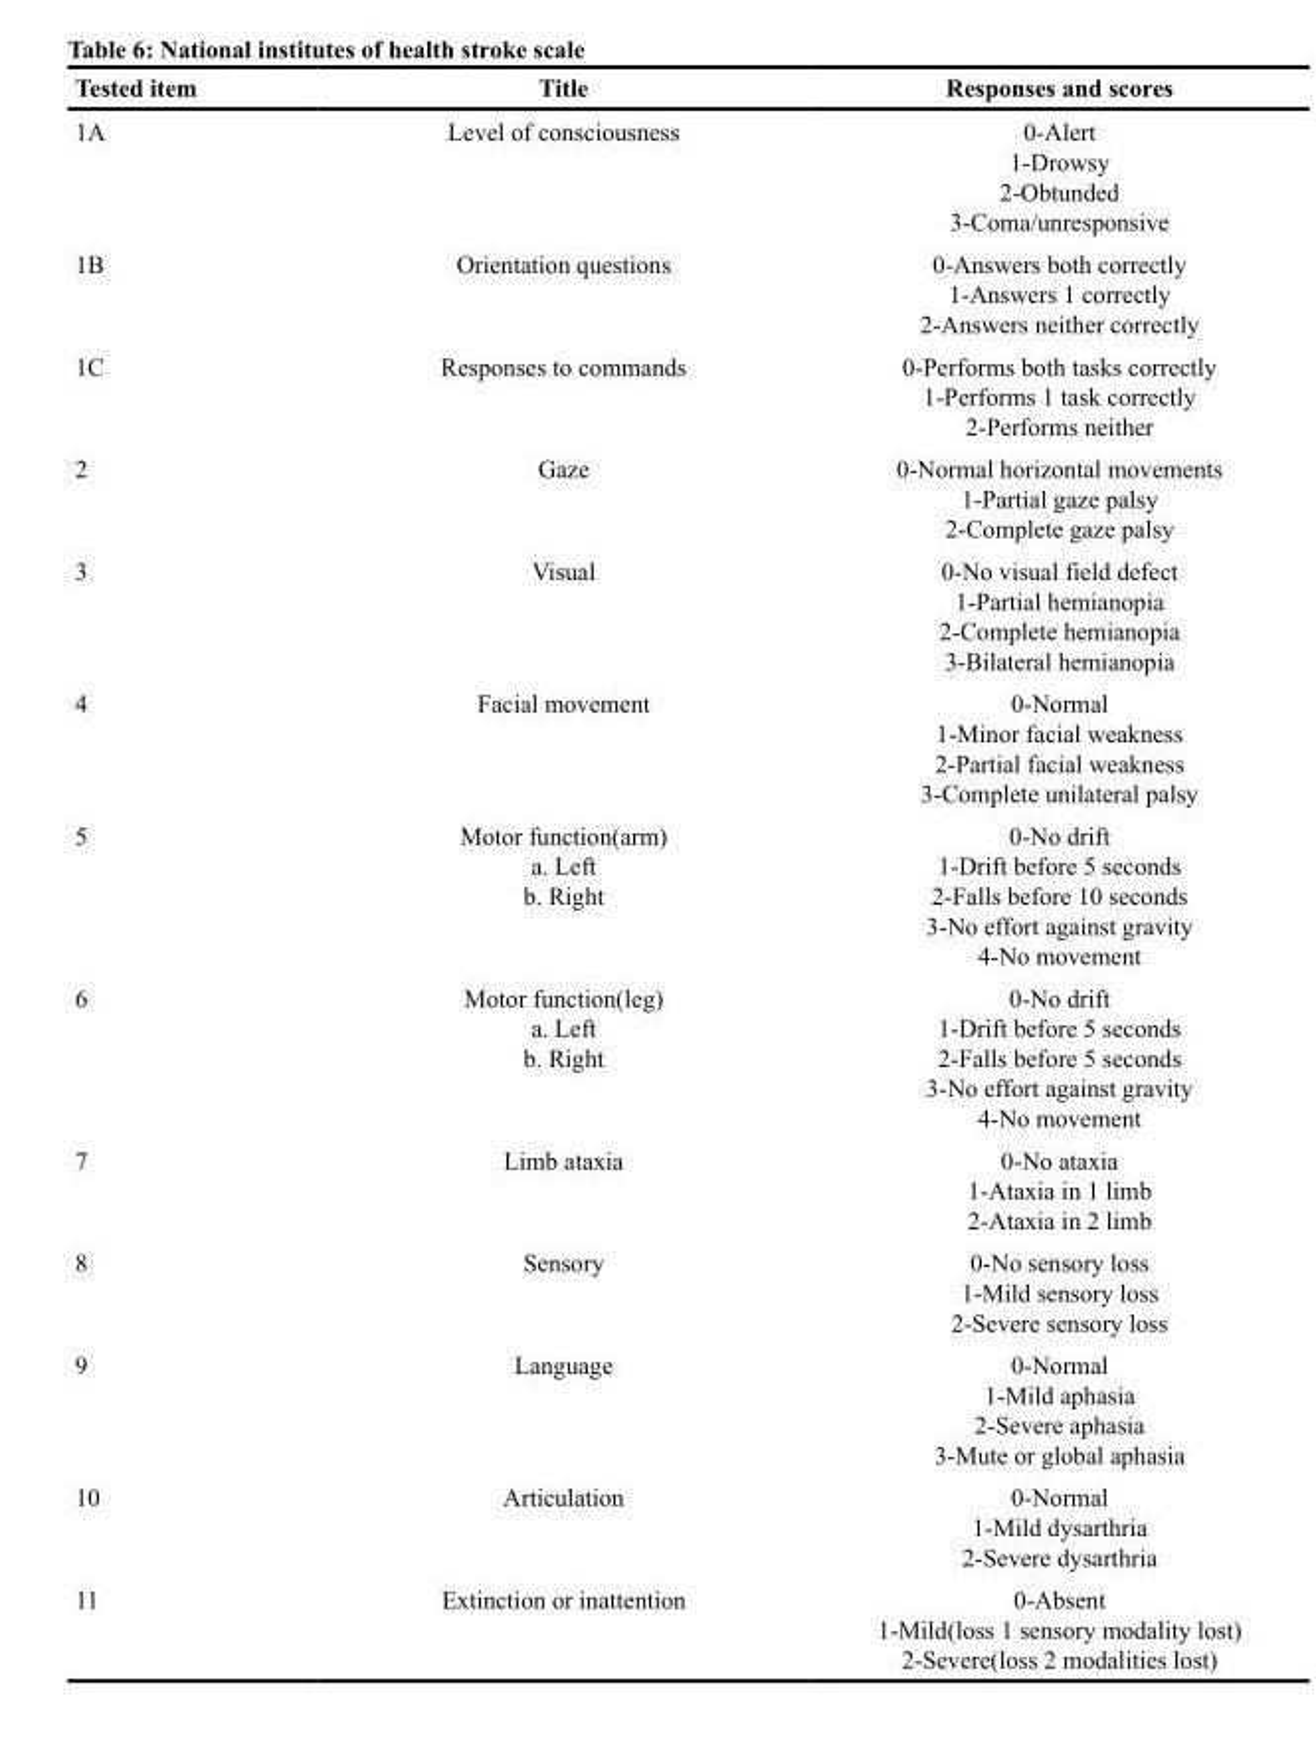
<table><thead><tr><td>Tested item</td><td>Title</td><td>Responses and scores</td></tr></thead><tbody><tr><td>1A</td><td>Level of consciousness</td><td>0-Alert 1-Drowsy 2-Obtunded 3-Coma/unresponsive</td></tr><tr><td>1B</td><td>Orientation questions</td><td>0-Answers both correctly 1-Answers 1 correctly 2-Answers neither correctly</td></tr><tr><td>1C</td><td>Responses to commands</td><td>0-Performs both tasks correctly 1-Performs 1 task correctly 2-Performs neither</td></tr><tr><td>2</td><td>Gaze</td><td>0-Normal horizontal movements 1-Partial gaze palsy 2-Complete gaze palsy</td></tr><tr><td>3</td><td>Visual</td><td>0-No visual field defect 1-Partial hemianopia 2-Complete hemianopia 3-Bilateral hemianopia</td></tr><tr><td>4</td><td>Facial movement</td><td>0-Normal 1-Minor facial weakness 2-Partial facial weakness 3-Complete unilateral palsy</td></tr><tr><td>5</td><td>Motor function(arm) a. Left b. Right</td><td>0-No drift 1-Drift before 5 seconds 2-Falls before 10 seconds 3-No effort against gravity 4-No movement</td></tr><tr><td>6</td><td>Motor function(leg) a. Left b. Right</td><td>0-No drift 1-Drift before 5 seconds 2-Falls before 5 seconds 3-No effort against gravity 4-No movement</td></tr><tr><td>7</td><td>Limb ataxia</td><td>0-No ataxia 1-Ataxia in 1 limb 2-Ataxia in 2 limb</td></tr><tr><td>8</td><td>Sensory</td><td>0-No sensory loss 1-Mild sensory loss 2-Severe sensory loss</td></tr><tr><td>9</td><td>Language</td><td>0-Normal 1-Mild aphasia 2-Severe aphasia 3-Mute or global aphasia</td></tr><tr><td>10</td><td>Articulation</td><td>0-Normal 1-Mild dysarthria 2-Severe dysarthria</td></tr><tr><td>11</td><td>Extinction or inattention</td><td>0-Absent 1-Mild(loss 1 sensory modality lost) 2-Severe(loss 2 modalities lost)</td></tr></tbody></table>